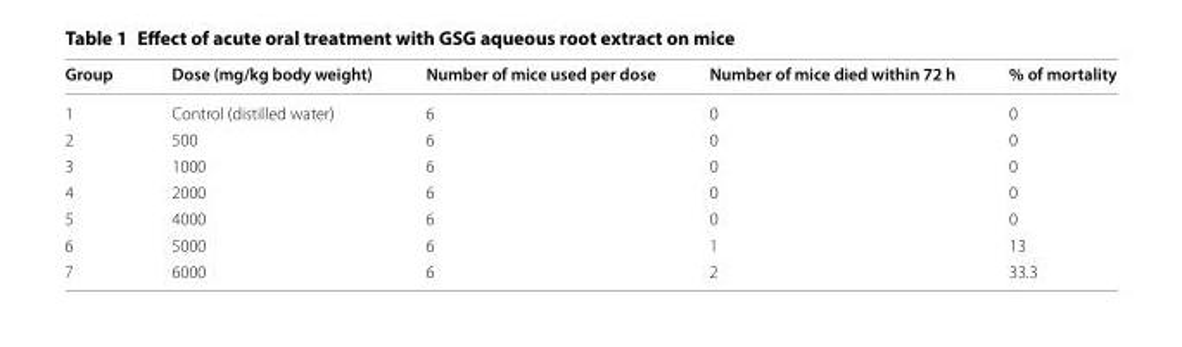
<table><thead><tr><td>Group</td><td>Dose (mg/kg body weight)</td><td>Number of mice used per dose</td><td>Number of mice died within 72 h</td><td>% of mortality</td></tr></thead><tbody><tr><td>1</td><td>Control (distilled water)</td><td>6</td><td>0</td><td>0</td></tr><tr><td>2</td><td>500</td><td>6</td><td>0</td><td>0</td></tr><tr><td>3</td><td>1000</td><td>6</td><td>0</td><td>0</td></tr><tr><td>4</td><td>2000</td><td>6</td><td>0</td><td>0</td></tr><tr><td>5</td><td>4000</td><td>6</td><td>0</td><td>0</td></tr><tr><td>6</td><td>5000</td><td>6</td><td>1</td><td>13</td></tr><tr><td>7</td><td>6000</td><td>6</td><td>2</td><td>33.3</td></tr></tbody></table>